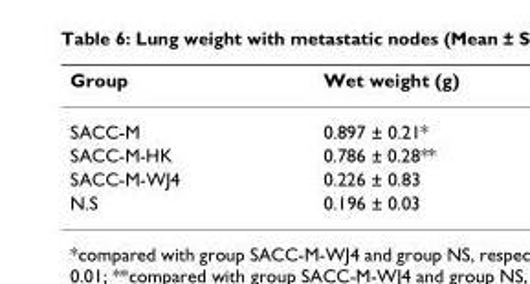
<table><thead><tr><td>Group</td><td>Wet weight (g)</td></tr></thead><tbody><tr><td>SACC-M</td><td>0.897 ± 0.21*</td></tr><tr><td>SACC-M-HK</td><td>0.786 ± 0.28**</td></tr><tr><td>SACC-M-WJ4</td><td>0.226 ± 0.83</td></tr><tr><td>N.S</td><td>0.196 ± 0.03</td></tr></tbody></table>